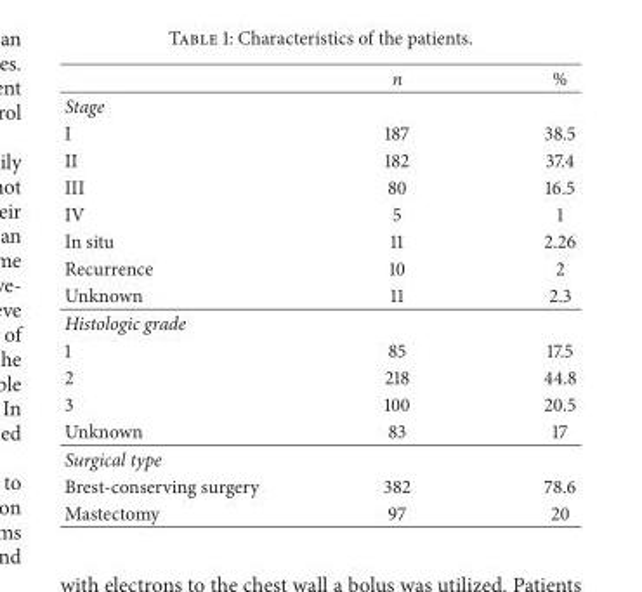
<table><thead><tr><td></td><td>n</td><td>%</td></tr></thead><tbody><tr><td colspan="3">Stage</td></tr><tr><td>I</td><td>187</td><td>38.5</td></tr><tr><td>II</td><td>182</td><td>37.4</td></tr><tr><td>III</td><td>80</td><td>16.5</td></tr><tr><td>IV</td><td>5</td><td>1</td></tr><tr><td>In situ</td><td>11</td><td>2.26</td></tr><tr><td>Recurrence</td><td>10</td><td>2</td></tr><tr><td>Unknown</td><td>11</td><td>2.3</td></tr><tr><td colspan="3">Histologic grade</td></tr><tr><td>1</td><td>85</td><td>17.5</td></tr><tr><td>2</td><td>218</td><td>44.8</td></tr><tr><td>3</td><td>100</td><td>20.5</td></tr><tr><td>Unknown</td><td>83</td><td>17</td></tr><tr><td colspan="3">Surgical type</td></tr><tr><td>Brest-conserving surgery</td><td>382</td><td>78.6</td></tr><tr><td>Mastectomy</td><td>97</td><td>20</td></tr></tbody></table>